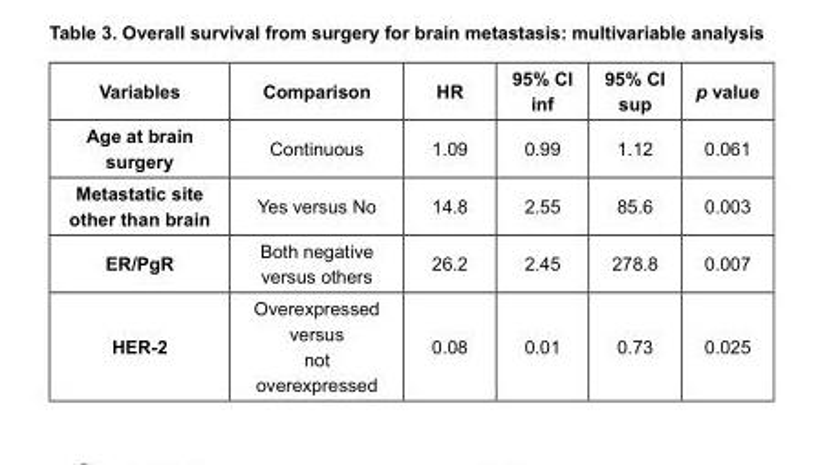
<table><thead><tr><td>Variables</td><td>Comparison</td><td>HR</td><td>95% CI inf</td><td>95% CI sup</td><td>p value</td></tr></thead><tbody><tr><td>Age at brain surgery</td><td>Continuous</td><td>1.09</td><td>0.99</td><td>1.12</td><td>0.061</td></tr><tr><td>Metastatic site other than brain</td><td>Yes versus No</td><td>14.8</td><td>2.55</td><td>85.6</td><td>0.003</td></tr><tr><td>ER/PgR</td><td>Both negative versus others</td><td>26.2</td><td>2.45</td><td>278.8</td><td>0.007</td></tr><tr><td>HER-2</td><td>Overexpressed versus not overexpressed</td><td>0.08</td><td>0.01</td><td>0.73</td><td>0.025</td></tr></tbody></table>